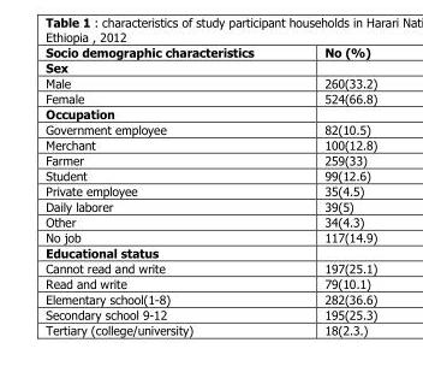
<table><thead><tr><td>Socio demographic characteristics</td><td>No (%)</td></tr></thead><tbody><tr><td colspan="2">Sex</td></tr><tr><td>Male</td><td>260(33.2)</td></tr><tr><td>Female</td><td>524(66.8)</td></tr><tr><td colspan="2">Occupation</td></tr><tr><td>Government employee</td><td>82(10.5)</td></tr><tr><td>Merchant</td><td>100(12.8)</td></tr><tr><td>Farmer</td><td>259(33)</td></tr><tr><td>Student</td><td>99(12.6)</td></tr><tr><td>Private employee</td><td>35(4.5)</td></tr><tr><td>Daily laborer</td><td>39(5)</td></tr><tr><td>Other</td><td>34(4.3)</td></tr><tr><td>No job</td><td>117(14.9)</td></tr><tr><td colspan="2">Educational status</td></tr><tr><td>Cannot read and write</td><td>197(25.1)</td></tr><tr><td>Read and write</td><td>79(10.1)</td></tr><tr><td>Elementary school(1-8)</td><td>282(36.6)</td></tr><tr><td>Secondary school 9-12</td><td>195(25.3)</td></tr><tr><td>Tertiary (college/university)</td><td>18(2.3.)</td></tr></tbody></table>